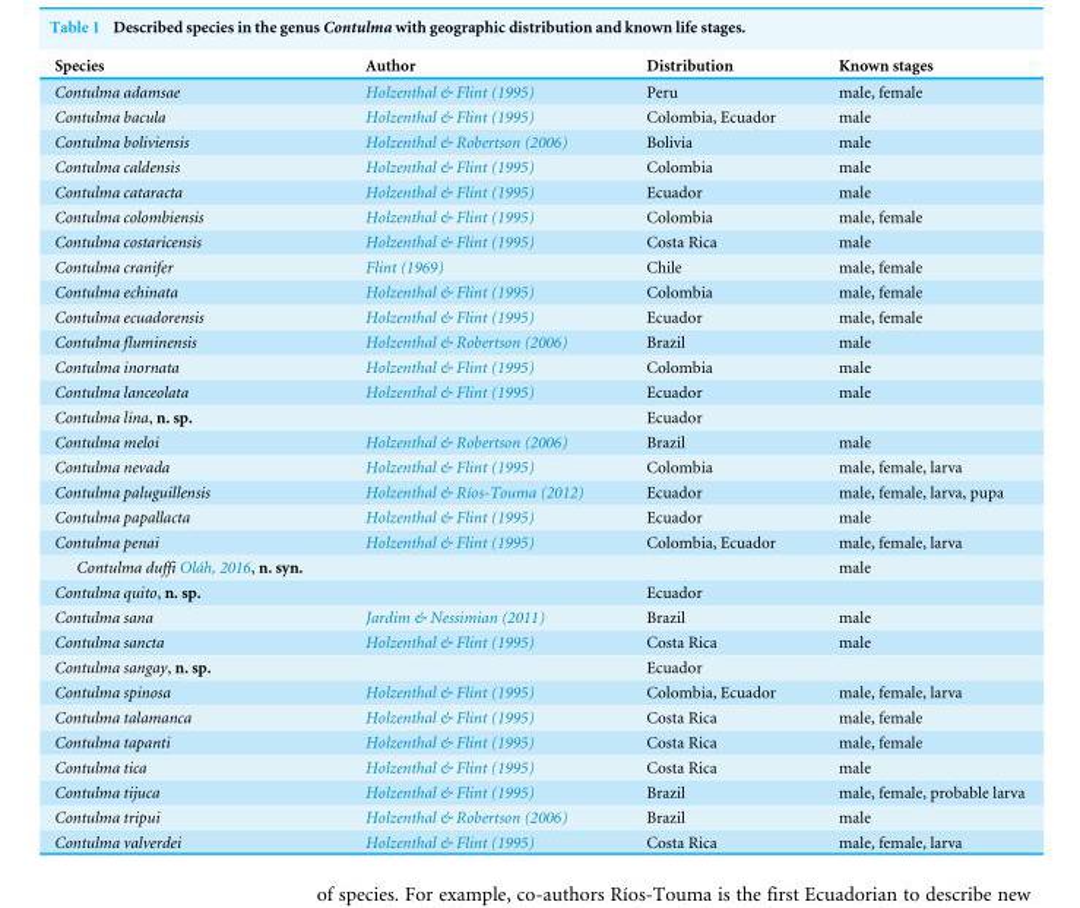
<table><thead><tr><td>Species</td><td>Author</td><td>Distribution</td><td>Known stages</td></tr></thead><tbody><tr><td>Contulma adamsae</td><td>Holzenthal &amp; Flint (1995)</td><td>Peru</td><td>male, female</td></tr><tr><td>Contulma bacula</td><td>Holzenthal &amp; Flint (1995)</td><td>Colombia, Ecuador</td><td>male</td></tr><tr><td>Contulma boliviensis</td><td>Holzenthal &amp; Robertson (2006)</td><td>Bolivia</td><td>male</td></tr><tr><td>Contulma caldensis</td><td>Holzenthal &amp; Flint (1995)</td><td>Colombia</td><td>male</td></tr><tr><td>Contulma cataracta</td><td>Holzenthal &amp; Flint (1995)</td><td>Ecuador</td><td>male</td></tr><tr><td>Contulma colombiensis</td><td>Holzenthal &amp; Flint (1995)</td><td>Colombia</td><td>male, female</td></tr><tr><td>Contulma costaricensis</td><td>Holzenthal &amp; Flint (1995)</td><td>Costa Rica</td><td>male</td></tr><tr><td>Contulma cranifer</td><td>Flint (1969)</td><td>Chile</td><td>male, female</td></tr><tr><td>Contulma echinata</td><td>Holzenthal &amp; Flint (1995)</td><td>Colombia</td><td>male, female</td></tr><tr><td>Contulma ecuadorensis</td><td>Holzenthal &amp; Flint (1995)</td><td>Ecuador</td><td>male, female</td></tr><tr><td>Contulma fluminensis</td><td>Holzenthal &amp; Robertson (2006)</td><td>Brazil</td><td>male</td></tr><tr><td>Contulma inornata</td><td>Holzenthal &amp; Flint (1995)</td><td>Colombia</td><td>male</td></tr><tr><td>Contulma lanceolata</td><td>Holzenthal &amp; Flint (1995)</td><td>Ecuador</td><td>male</td></tr><tr><td>Contulma lina, n. sp.</td><td></td><td>Ecuador</td><td></td></tr><tr><td>Contulma meloi</td><td>Holzenthal &amp; Robertson (2006)</td><td>Brazil</td><td>male</td></tr><tr><td>Contulma nevada</td><td>Holzenthal &amp; Flint (1995)</td><td>Colombia</td><td>male, female, larva</td></tr><tr><td>Contulma paluguillensis</td><td>Holzenthal &amp; Ríos-Touma (2012)</td><td>Ecuador</td><td>male, female, larva, pupa</td></tr><tr><td>Contulma papallacta</td><td>Holzenthal &amp; Flint (1995)</td><td>Ecuador</td><td>male</td></tr><tr><td>Contulma penai</td><td>Holzenthal &amp; Flint (1995)</td><td>Colombia, Ecuador</td><td>male, female, larva</td></tr><tr><td>Contulma duffi Oláh, 2016, n. syn.</td><td></td><td></td><td>male</td></tr><tr><td>Contulma quito, n. sp.</td><td></td><td>Ecuador</td><td></td></tr><tr><td>Contulma sana</td><td>Jardim &amp; Nessimian (2011)</td><td>Brazil</td><td>male</td></tr><tr><td>Contulma sancta</td><td>Holzenthal &amp; Flint (1995)</td><td>Costa Rica</td><td>male</td></tr><tr><td>Contulma sangay, n. sp.</td><td></td><td>Ecuador</td><td></td></tr><tr><td>Contulma spinosa</td><td>Holzenthal &amp; Flint (1995)</td><td>Colombia, Ecuador</td><td>male, female, larva</td></tr><tr><td>Contulma talamanca</td><td>Holzenthal &amp; Flint (1995)</td><td>Costa Rica</td><td>male, female</td></tr><tr><td>Contulma tapanti</td><td>Holzenthal &amp; Flint (1995)</td><td>Costa Rica</td><td>male, female</td></tr><tr><td>Contulma tica</td><td>Holzenthal &amp; Flint (1995)</td><td>Costa Rica</td><td>male</td></tr><tr><td>Contulma tijuca</td><td>Holzenthal &amp; Flint (1995)</td><td>Brazil</td><td>male, female, probable larva</td></tr><tr><td>Contulma tripui</td><td>Holzenthal &amp; Robertson (2006)</td><td>Brazil</td><td>male</td></tr><tr><td>Contulma valverdei</td><td>Holzenthal &amp; Flint (1995)</td><td>Costa Rica</td><td>male, female, larva</td></tr></tbody></table>